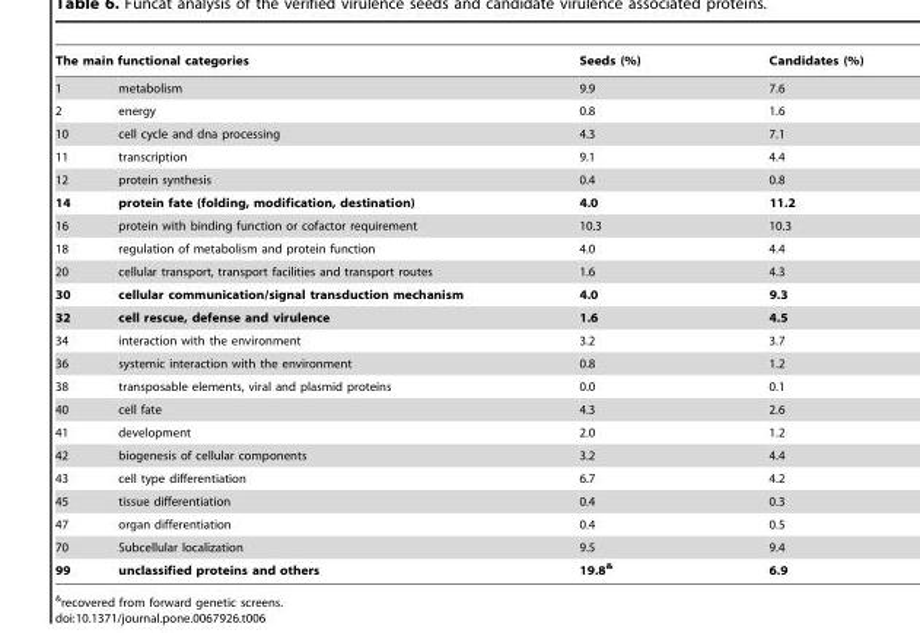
<table><thead><tr><td colspan="2">The main functional categories</td><td rowspan="2">Seeds (%) 9.9</td><td rowspan="2">Candidates (%) 7.6</td></tr><tr><td>1</td><td>metabolism</td></tr></thead><tbody><tr><td>2</td><td>energy</td><td>0.8</td><td>1.6</td></tr><tr><td>10</td><td>cell cycle and dna processing</td><td>4.3</td><td>7.1</td></tr><tr><td>11</td><td>transcription</td><td>9.1</td><td>4.4</td></tr><tr><td>12</td><td>protein synthesis</td><td>0.4</td><td>0.8</td></tr><tr><td>14</td><td>protein fate (folding, modification, destination)</td><td>4.0</td><td>11.2</td></tr><tr><td>16</td><td>protein with binding function or cofactor requirement</td><td>10.3</td><td>10.3</td></tr><tr><td>18</td><td>regulation of metabolism and protein function</td><td>4.0</td><td>4.4</td></tr><tr><td>20</td><td>cellular transport, transport facilities and transport routes</td><td>1.6</td><td>4.3</td></tr><tr><td>30</td><td>cellular communication/signal transduction mechanism</td><td>4.0</td><td>9.3</td></tr><tr><td>32</td><td>cell rescue, defense and virulence</td><td>1.6</td><td>4.5</td></tr><tr><td>34</td><td>interaction with the environment</td><td>3.2</td><td>3.7</td></tr><tr><td>36</td><td>systemic interaction with the environment</td><td>0.8</td><td>1.2</td></tr><tr><td>38</td><td>transposable elements, viral and plasmid proteins</td><td>0.0</td><td>0.1</td></tr><tr><td>40</td><td>cell fate</td><td>4.3</td><td>2.6</td></tr><tr><td>41</td><td>development</td><td>2.0</td><td>1.2</td></tr><tr><td>42</td><td>biogenesis of cellular components</td><td>3.2</td><td>4.4</td></tr><tr><td>43</td><td>cell type differentiation</td><td>6.7</td><td>4.2</td></tr><tr><td>45</td><td>tissue differentiation</td><td>0.4</td><td>0.3</td></tr><tr><td>47</td><td>organ differentiation</td><td>0.4</td><td>0.5</td></tr><tr><td>70</td><td>Subcellular localization</td><td>9.5</td><td>9.4</td></tr><tr><td>99</td><td>unclassified proteins and others</td><td>19.8&amp;</td><td>6.9</td></tr></tbody></table>